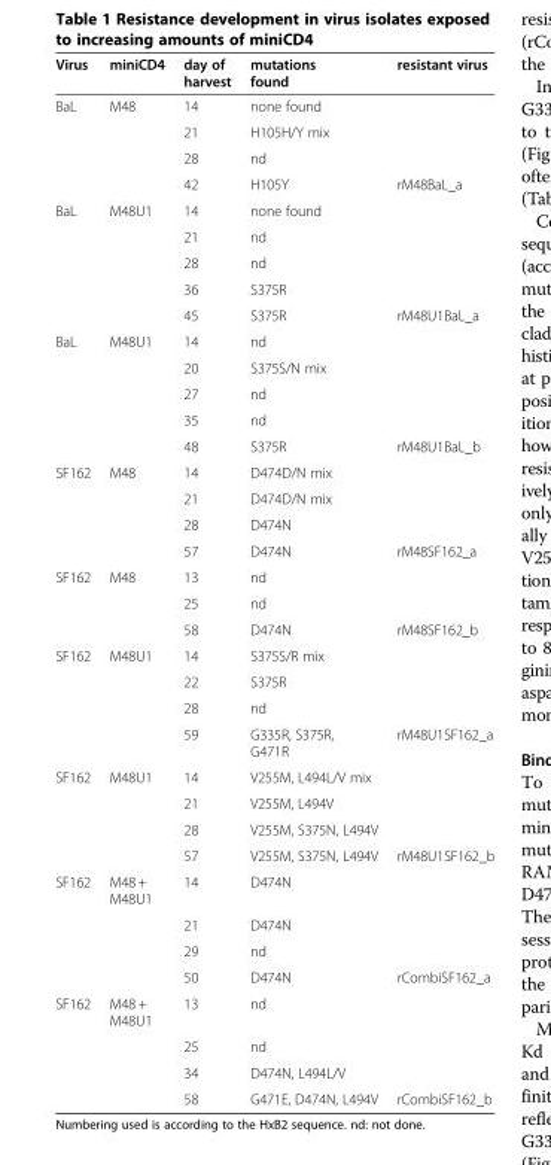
<table><thead><tr><td>Virus</td><td>miniCD4</td><td>day of harvest</td><td>mutations found</td><td>resistant virus</td></tr></thead><tbody><tr><td rowspan="4">BaL</td><td>M48</td><td>14</td><td>none found</td><td></td></tr><tr><td></td><td>21</td><td>H105H/Y mix</td><td></td></tr><tr><td></td><td>28</td><td>nd</td><td></td></tr><tr><td></td><td>42</td><td>H105Y</td><td>rM48BaL_a</td></tr><tr><td rowspan="5">BaL</td><td>M48U1</td><td>14</td><td>none found</td><td></td></tr><tr><td></td><td>21</td><td>nd</td><td></td></tr><tr><td></td><td>28</td><td>nd</td><td></td></tr><tr><td></td><td>36</td><td>S375R</td><td></td></tr><tr><td></td><td>45</td><td>S375R</td><td>rM48U1BaL_a</td></tr><tr><td rowspan="5">BaL</td><td>M48U1</td><td>14</td><td>nd</td><td></td></tr><tr><td></td><td>20</td><td>S375S/N mix</td><td></td></tr><tr><td></td><td>27</td><td>nd</td><td></td></tr><tr><td></td><td>35</td><td>nd</td><td></td></tr><tr><td></td><td>48</td><td>S375R</td><td>rM48U1BaL_b</td></tr><tr><td rowspan="4">SF162</td><td>M48</td><td>14</td><td>D474D/N mix</td><td></td></tr><tr><td></td><td>21</td><td>D474D/N mix</td><td></td></tr><tr><td></td><td>28</td><td>D474N</td><td></td></tr><tr><td></td><td>57</td><td>D474N</td><td>rM48SF162_a</td></tr><tr><td rowspan="3">SF162</td><td>M48</td><td>13</td><td>nd</td><td></td></tr><tr><td></td><td>25</td><td>nd</td><td></td></tr><tr><td></td><td>58</td><td>D474N</td><td>rM48SF162_b</td></tr><tr><td rowspan="4">SF162</td><td>M48U1</td><td>14</td><td>S375S/R mix</td><td></td></tr><tr><td></td><td>22</td><td>S375R</td><td></td></tr><tr><td></td><td>28</td><td>nd</td><td></td></tr><tr><td></td><td>59</td><td>G335R, S375R, G471R</td><td>rM48U1SF162_a</td></tr><tr><td rowspan="4">SF162</td><td>M48U1</td><td>14</td><td>V255M, L494L/V mix</td><td></td></tr><tr><td></td><td>21</td><td>V255M, L494V</td><td></td></tr><tr><td></td><td>28</td><td>V255M, S375N, L494V</td><td></td></tr><tr><td></td><td>57</td><td>V255M, S375N, L494V</td><td>rM48U1SF162_b</td></tr><tr><td rowspan="4">SF162</td><td>M48 + M48U1</td><td>14</td><td>D474N</td><td></td></tr><tr><td></td><td>21</td><td>D474N</td><td></td></tr><tr><td></td><td>29</td><td>nd</td><td></td></tr><tr><td></td><td>50</td><td>D474N</td><td>rCombiSF162_a</td></tr><tr><td rowspan="4">SF162</td><td>M48 + M48U1</td><td>13</td><td>nd</td><td></td></tr><tr><td></td><td>25</td><td>nd</td><td></td></tr><tr><td></td><td>34</td><td>D474N, L494L/V</td><td></td></tr><tr><td></td><td>58</td><td>G471E, D474N, L494V</td><td>rCombiSF162_b</td></tr></tbody></table>